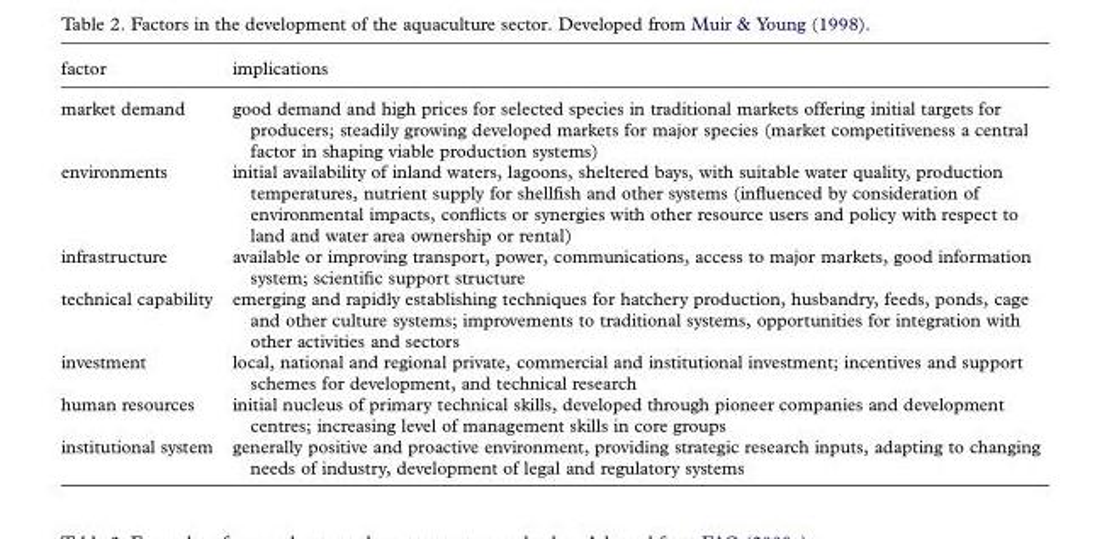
<table><thead><tr><td>factor</td><td>implications</td></tr></thead><tbody><tr><td>market demand</td><td>good demand and high prices for selected species in traditional markets offering initial targets for producers; steadily growing developed markets for major species (market competitiveness a central factor in shaping viable production systems)</td></tr><tr><td>environments</td><td>initial availability of inland waters, lagoons, sheltered bays, with suitable water quality, production temperatures, nutrient supply for shellfish and other systems (influenced by consideration of environmental impacts, conflicts or synergies with other resource users and policy with respect to land and water area ownership or rental)</td></tr><tr><td>infrastructure</td><td>available or improving transport, power, communications, access to major markets, good information system; scientific support structure</td></tr><tr><td>technical capability</td><td>emerging and rapidly establishing techniques for hatchery production, husbandry, feeds, ponds, cage and other culture systems; improvements to traditional systems, opportunities for integration with other activities and sectors</td></tr><tr><td>investment</td><td>local, national and regional private, commercial and institutional investment; incentives and support schemes for development, and technical research</td></tr><tr><td>human resources</td><td>initial nucleus of primary technical skills, developed through pioneer companies and development centres; increasing level of management skills in core groups</td></tr><tr><td>institutional system</td><td>generally positive and proactive environment, providing strategic research inputs, adapting to changing needs of industry, development of legal and regulatory systems</td></tr></tbody></table>